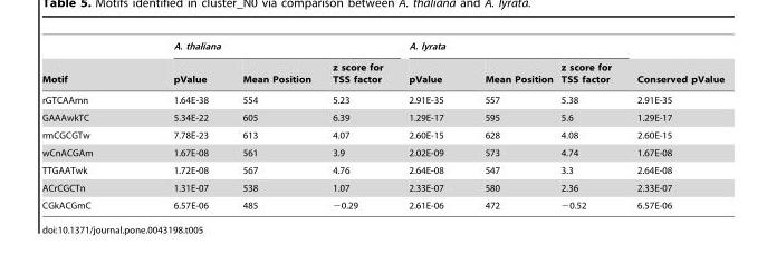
<table><thead><tr><td rowspan="2">Motif</td><td colspan="3">A. thaliana</td><td colspan="3">A. lyrata</td><td rowspan="2">Conserved pValue</td></tr><tr><td>pValue</td><td>Mean Position</td><td>z score for TSS factor</td><td>pValue</td><td>Mean Position</td><td>z score for TSS factor</td></tr></thead><tbody><tr><td>rGTCAAmn</td><td>1.64E-38</td><td>554</td><td>5.23</td><td>2.91E-35</td><td>557</td><td>5.38</td><td>2.91E-35</td></tr><tr><td>GAAAwkTC</td><td>5.34E-22</td><td>605</td><td>6.39</td><td>1.29E-17</td><td>595</td><td>5.6</td><td>1.29E-17</td></tr><tr><td>rmCGCGTw</td><td>7.78E-23</td><td>613</td><td>4.07</td><td>2.60E-15</td><td>628</td><td>4.08</td><td>2.60E-15</td></tr><tr><td>wCnACGAm</td><td>1.67E-08</td><td>561</td><td>3.9</td><td>2.02E-09</td><td>573</td><td>4.74</td><td>1.67E-08</td></tr><tr><td>TTGAATwk</td><td>1.72E-08</td><td>567</td><td>4.76</td><td>2.64E-08</td><td>547</td><td>3.3</td><td>2.64E-08</td></tr><tr><td>ACrCGCTn</td><td>1.31E-07</td><td>538</td><td>1.07</td><td>2.33E-07</td><td>580</td><td>2.36</td><td>2.33E-07</td></tr><tr><td>CGkACGmC</td><td>6.57E-06</td><td>485</td><td>−0.29</td><td>2.61E-06</td><td>472</td><td>−0.52</td><td>6.57E-06</td></tr></tbody></table>